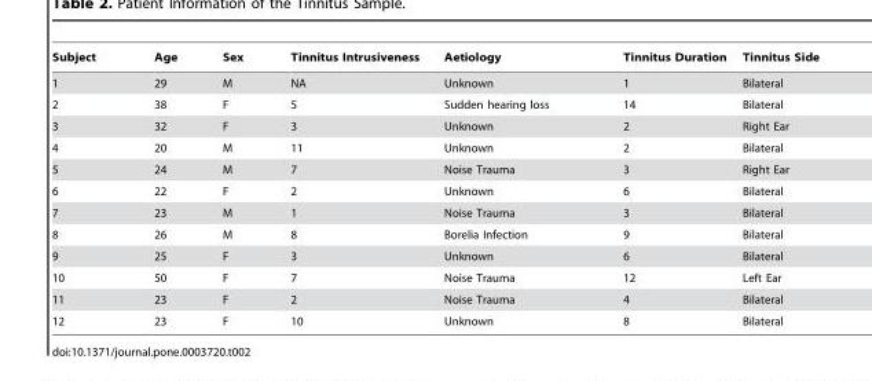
<table><thead><tr><td>Subject</td><td>Age</td><td>Sex</td><td>Tinnitus Intrusiveness</td><td>Aetiology</td><td>Tinnitus Duration</td><td>Tinnitus Side</td></tr></thead><tbody><tr><td>1</td><td>29</td><td>M</td><td>NA</td><td>Unknown</td><td>1</td><td>Bilateral</td></tr><tr><td>2</td><td>38</td><td>F</td><td>5</td><td>Sudden hearing loss</td><td>14</td><td>Bilateral</td></tr><tr><td>3</td><td>32</td><td>F</td><td>3</td><td>Unknown</td><td>2</td><td>Right Ear</td></tr><tr><td>4</td><td>20</td><td>M</td><td>11</td><td>Unknown</td><td>2</td><td>Bilateral</td></tr><tr><td>5</td><td>24</td><td>M</td><td>7</td><td>Noise Trauma</td><td>3</td><td>Right Ear</td></tr><tr><td>6</td><td>22</td><td>F</td><td>2</td><td>Unknown</td><td>6</td><td>Bilateral</td></tr><tr><td>7</td><td>23</td><td>M</td><td>1</td><td>Noise Trauma</td><td>3</td><td>Bilateral</td></tr><tr><td>8</td><td>26</td><td>M</td><td>8</td><td>Borelia Infection</td><td>9</td><td>Bilateral</td></tr><tr><td>9</td><td>25</td><td>F</td><td>3</td><td>Unknown</td><td>6</td><td>Bilateral</td></tr><tr><td>10</td><td>50</td><td>F</td><td>7</td><td>Noise Trauma</td><td>12</td><td>Left Ear</td></tr><tr><td>11</td><td>23</td><td>F</td><td>2</td><td>Noise Trauma</td><td>4</td><td>Bilateral</td></tr><tr><td>12</td><td>23</td><td>F</td><td>10</td><td>Unknown</td><td>8</td><td>Bilateral</td></tr></tbody></table>